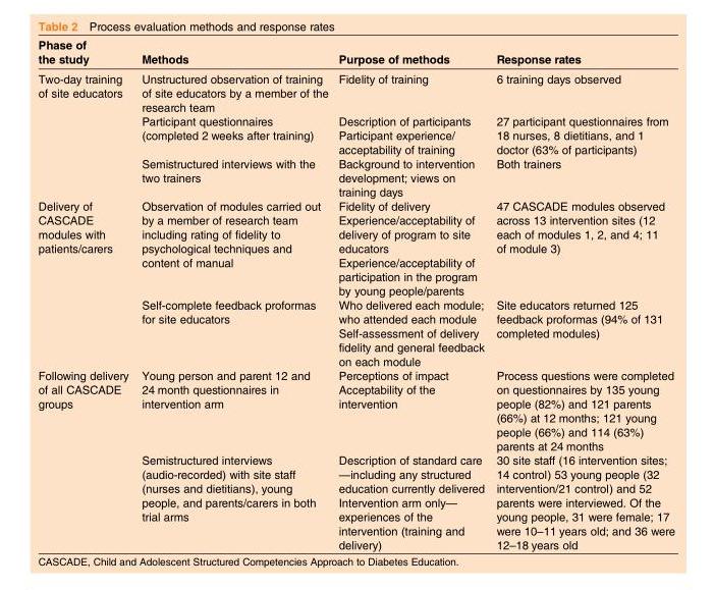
<table><thead><tr><td>Phase of the study</td><td>Methods</td><td>Purpose of methods</td><td>Response rates</td></tr></thead><tbody><tr><td rowspan="3">Two-day training of site educators</td><td>Unstructured observation of training of site educators by a member of the research team</td><td>Fidelity of training</td><td>6 training days observed</td></tr><tr><td>Participant questionnaires (completed 2 weeks after training)</td><td>Description of participants Participant experience/ acceptability of training</td><td>27 participant questionnaires from 18 nurses, 8 dietitians, and 1 doctor (63% of participants)</td></tr><tr><td>Semistructured interviews with the two trainers</td><td>Background to intervention development; views on training days</td><td>Both trainers</td></tr><tr><td rowspan="2">Delivery of CASCADE modules with patients/carers</td><td>Observation of modules carried out by a member of research team including rating of fidelity to psychological techniques and content of manual</td><td>Fidelity of delivery Experience/acceptability of delivery of program to site educators Experience/acceptability of participation in the program by young people/parents</td><td>47 CASCADE modules observed across 13 intervention sites (12 each of modules 1, 2, and 4; 11 of module 3)</td></tr><tr><td>Self-complete feedback proformas for site educators</td><td>Who delivered each module; who attended each module Self-assessment of delivery fidelity and general feedback on each module</td><td>Site educators returned 125 feedback proformas (94% of 131 completed modules)</td></tr><tr><td rowspan="2">Following delivery of all CASCADE groups</td><td>Young person and parent 12 and 24 month questionnaires in intervention arm</td><td>Perceptions of impact Acceptability of the intervention</td><td>Process questions were completed on questionnaires by 135 young people (82%) and 121 parents (66%) at 12 months; 121 young people (66%) and 114 (63%) parents at 24 months</td></tr><tr><td>Semistructured interviews (audio-recorded) with site staff (nurses and dietitians), young people, and parents/carers in both trial arms</td><td>Description of standard care —including any structured education currently delivered Intervention arm only— experiences of the intervention (training and delivery)</td><td>30 site staff (16 intervention sites; 14 control) 53 young people (32 intervention/21 control) and 52 parents were interviewed. Of the young people, 31 were female; 17 were 10–11 years old; and 36 were 12–18 years old</td></tr></tbody></table>